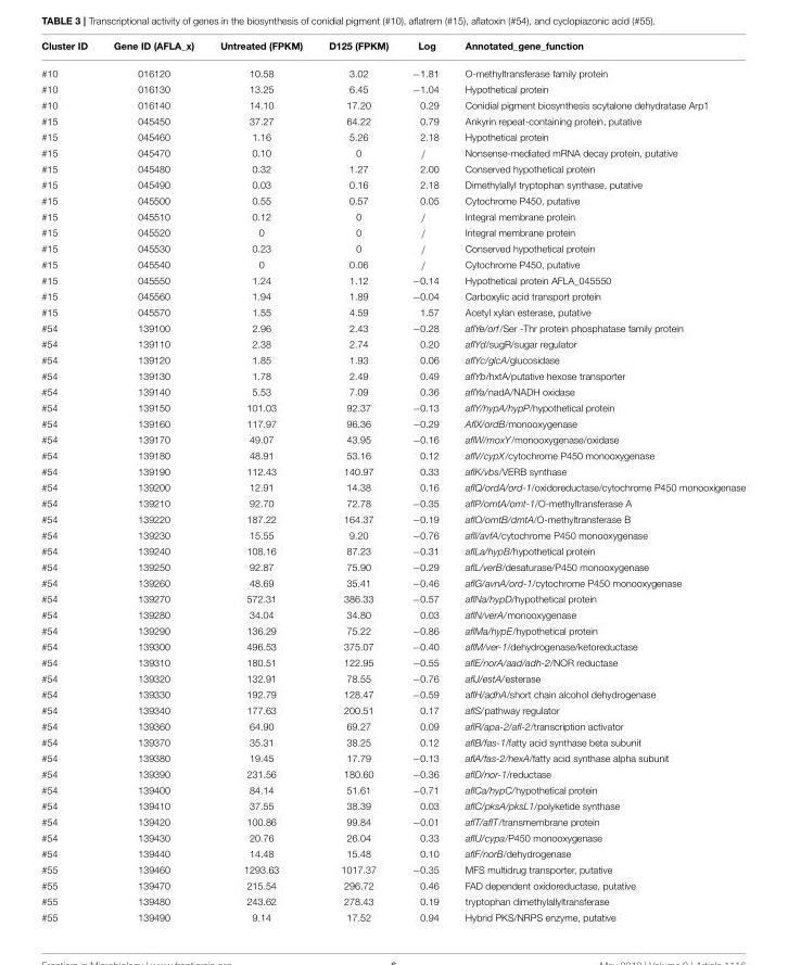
<table><thead><tr><td>Cluster ID</td><td>Gene ID (AFLA_x)</td><td>Untreated (FPKM)</td><td>D125 (FPKM)</td><td>Log</td><td>Annotated_gene_function</td></tr></thead><tbody><tr><td>#10</td><td>016120</td><td>10.58</td><td>3.02</td><td>−1.81</td><td>O-methyltransferase family protein</td></tr><tr><td>#10</td><td>016130</td><td>13.25</td><td>6.45</td><td>−1.04</td><td>Hypothetical protein</td></tr><tr><td>#10</td><td>016140</td><td>14.10</td><td>17.20</td><td>0.29</td><td>Conidial pigment biosynthesis scytalone dehydratase Arp1</td></tr><tr><td>#15</td><td>045450</td><td>37.27</td><td>64.22</td><td>0.79</td><td>Ankyrin repeat-containing protein, putative</td></tr><tr><td>#15</td><td>045460</td><td>1.16</td><td>5.26</td><td>2.18</td><td>Hypothetical protein</td></tr><tr><td>#15</td><td>045470</td><td>0.10</td><td>0</td><td>/</td><td>Nonsense-mediated mRNA decay protein, putative</td></tr><tr><td>#15</td><td>045480</td><td>0.32</td><td>1.27</td><td>2.00</td><td>Conserved hypothetical protein</td></tr><tr><td>#15</td><td>045490</td><td>0.03</td><td>0.16</td><td>2.18</td><td>Dimethylallyl tryptophan synthase, putative</td></tr><tr><td>#15</td><td>045500</td><td>0.55</td><td>0.57</td><td>0.05</td><td>Cytochrome P450, putative</td></tr><tr><td>#15</td><td>045510</td><td>0.12</td><td>0</td><td>/</td><td>Integral membrane protein</td></tr><tr><td>#15</td><td>045520</td><td>0</td><td>0</td><td>/</td><td>Integral membrane protein</td></tr><tr><td>#15</td><td>045530</td><td>0.23</td><td>0</td><td>/</td><td>Conserved hypothetical protein</td></tr><tr><td>#15</td><td>045540</td><td>0</td><td>0.06</td><td>/</td><td>Cytochrome P450, putative</td></tr><tr><td>#15</td><td>045550</td><td>1.24</td><td>1.12</td><td>−0.14</td><td>Hypothetical protein AFLA_045550</td></tr><tr><td>#15</td><td>045560</td><td>1.94</td><td>1.89</td><td>−0.04</td><td>Carboxylic acid transport protein</td></tr><tr><td>#15</td><td>045570</td><td>1.55</td><td>4.59</td><td>1.57</td><td>Acetyl xylan esterase, putative</td></tr><tr><td>#54</td><td>139100</td><td>2.96</td><td>2.43</td><td>−0.28</td><td>aflYe/orf/Ser -Thr protein phosphatase family protein</td></tr><tr><td>#54</td><td>139110</td><td>2.38</td><td>2.74</td><td>0.20</td><td>aflYd/sugR/sugar regulator</td></tr><tr><td>#54</td><td>139120</td><td>1.85</td><td>1.93</td><td>0.06</td><td>aflYc/glcA/glucosidase</td></tr><tr><td>#54</td><td>139130</td><td>1.78</td><td>2.49</td><td>0.49</td><td>aflYb/hxtA/putative hexose transporter</td></tr><tr><td>#54</td><td>139140</td><td>5.53</td><td>7.09</td><td>0.36</td><td>aflYa/nadA/NADH oxidase</td></tr><tr><td>#54</td><td>139150</td><td>101.03</td><td>92.37</td><td>−0.13</td><td>aflY/hypA/hypP/hypothetical protein</td></tr><tr><td>#54</td><td>139160</td><td>117.97</td><td>96.36</td><td>−0.29</td><td>AflX/ordB/monooxygenase</td></tr><tr><td>#54</td><td>139170</td><td>49.07</td><td>43.95</td><td>−0.16</td><td>aflW/moxY/monooxygenase/oxidase</td></tr><tr><td>#54</td><td>139180</td><td>48.91</td><td>53.16</td><td>0.12</td><td>aflV/cypX/cytochrome P450 monooxygenase</td></tr><tr><td>#54</td><td>139190</td><td>112.43</td><td>140.97</td><td>0.33</td><td>aflK/vbs/VERB synthase</td></tr><tr><td>#54</td><td>139200</td><td>12.91</td><td>14.38</td><td>0.16</td><td>aflQ/ordA/ord-1/oxidoreductase/cytochrome P450 monooxigenase</td></tr><tr><td>#54</td><td>139210</td><td>92.70</td><td>72.78</td><td>−0.35</td><td>aflP/omtA/omt-1/O-methyltransferase A</td></tr><tr><td>#54</td><td>139220</td><td>187.22</td><td>164.37</td><td>−0.19</td><td>aflO/omtB/dmtA/O-methyltransferase B</td></tr><tr><td>#54</td><td>139230</td><td>15.55</td><td>9.20</td><td>−0.76</td><td>aflI/avfA/cytochrome P450 monooxygenase</td></tr><tr><td>#54</td><td>139240</td><td>108.16</td><td>87.23</td><td>−0.31</td><td>aflLa/hypB/hypothetical protein</td></tr><tr><td>#54</td><td>139250</td><td>92.87</td><td>75.90</td><td>−0.29</td><td>aflL/verB/desaturase/P450 monooxygenase</td></tr><tr><td>#54</td><td>139260</td><td>48.69</td><td>35.41</td><td>−0.46</td><td>aflG/avnA/ord-1/cytochrome P450 monooxygenase</td></tr><tr><td>#54</td><td>139270</td><td>572.31</td><td>386.33</td><td>−0.57</td><td>aflNa/hypD/hypothetical protein</td></tr><tr><td>#54</td><td>139280</td><td>34.04</td><td>34.80</td><td>0.03</td><td>aflN/verA/monooxygenase</td></tr><tr><td>#54</td><td>139290</td><td>136.29</td><td>75.22</td><td>−0.86</td><td>aflMa/hypE/hypothetical protein</td></tr><tr><td>#54</td><td>139300</td><td>496.53</td><td>375.07</td><td>−0.40</td><td>aflM/ver-1/dehydrogenase/ketoreductase</td></tr><tr><td>#54</td><td>139310</td><td>180.51</td><td>122.95</td><td>−0.55</td><td>aflE/norA/aad/adh-2/NOR reductase</td></tr><tr><td>#54</td><td>139320</td><td>132.91</td><td>78.55</td><td>−0.76</td><td>aflJ/estA/esterase</td></tr><tr><td>#54</td><td>139330</td><td>192.79</td><td>128.47</td><td>−0.59</td><td>aflH/adhA/short chain alcohol dehydrogenase</td></tr><tr><td>#54</td><td>139340</td><td>177.63</td><td>200.51</td><td>0.17</td><td>aflS/pathway regulator</td></tr><tr><td>#54</td><td>139360</td><td>64.90</td><td>69.27</td><td>0.09</td><td>aflR/apa-2/afl-2/transcription activator</td></tr><tr><td>#54</td><td>139370</td><td>35.31</td><td>38.25</td><td>0.12</td><td>aflB/fas-1/fatty acid synthase beta subunit</td></tr><tr><td>#54</td><td>139380</td><td>19.45</td><td>17.79</td><td>−0.13</td><td>aflA/fas-2/hexA/fatty acid synthase alpha subunit</td></tr><tr><td>#54</td><td>139390</td><td>231.56</td><td>180.60</td><td>−0.36</td><td>aflD/nor-1/reductase</td></tr><tr><td>#54</td><td>139400</td><td>84.14</td><td>51.61</td><td>−0.71</td><td>aflCa/hypC/hypothetical protein</td></tr><tr><td>#54</td><td>139410</td><td>37.55</td><td>38.39</td><td>0.03</td><td>aflC/pksA/pksL1/polyketide synthase</td></tr><tr><td>#54</td><td>139420</td><td>100.86</td><td>99.84</td><td>−0.01</td><td>aflT/aflT/transmembrane protein</td></tr><tr><td>#54</td><td>139430</td><td>20.76</td><td>26.04</td><td>0.33</td><td>aflU/cypa/P450 monooxygenase</td></tr><tr><td>#54</td><td>139440</td><td>14.48</td><td>15.48</td><td>0.10</td><td>aflF/norB/dehydrogenase</td></tr><tr><td>#55</td><td>139460</td><td>1293.63</td><td>1017.37</td><td>−0.35</td><td>MFS multidrug transporter, putative</td></tr><tr><td>#55</td><td>139470</td><td>215.54</td><td>296.72</td><td>0.46</td><td>FAD dependent oxidoreductase, putative</td></tr><tr><td>#55</td><td>139480</td><td>243.62</td><td>278.43</td><td>0.19</td><td>tryptophan dimethylallyltransferase</td></tr><tr><td>#55</td><td>139490</td><td>9.14</td><td>17.52</td><td>0.94</td><td>Hybrid PKS/NRPS enzyme, putative</td></tr></tbody></table>